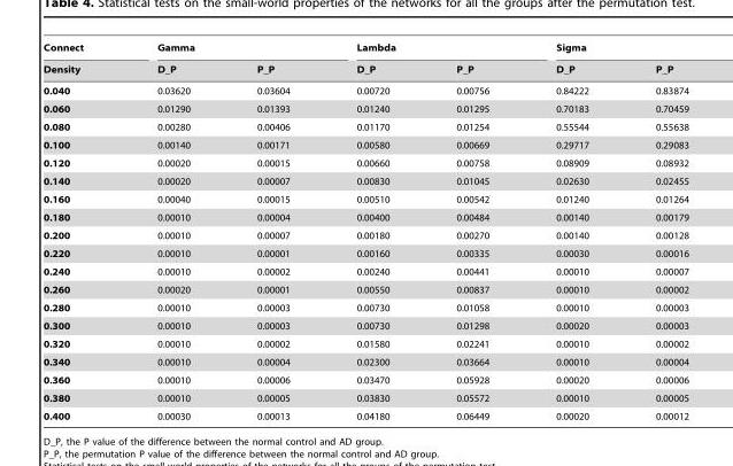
<table><thead><tr><td rowspan="2">Connect Density</td><td colspan="2">Gamma</td><td colspan="2">Lambda</td><td colspan="2">Sigma</td></tr><tr><td>D_P</td><td>P_P</td><td>D_P</td><td>P_P</td><td>D_P</td><td>P_P</td></tr></thead><tbody><tr><td>0.040</td><td>0.03620</td><td>0.03604</td><td>0.00720</td><td>0.00756</td><td>0.84222</td><td>0.83874</td></tr><tr><td>0.060</td><td>0.01290</td><td>0.01393</td><td>0.01240</td><td>0.01295</td><td>0.70183</td><td>0.70459</td></tr><tr><td>0.080</td><td>0.00280</td><td>0.00406</td><td>0.01170</td><td>0.01254</td><td>0.55544</td><td>0.55638</td></tr><tr><td>0.100</td><td>0.00140</td><td>0.00171</td><td>0.00580</td><td>0.00669</td><td>0.29717</td><td>0.29083</td></tr><tr><td>0.120</td><td>0.00020</td><td>0.00015</td><td>0.00660</td><td>0.00758</td><td>0.08909</td><td>0.08932</td></tr><tr><td>0.140</td><td>0.00020</td><td>0.00007</td><td>0.00830</td><td>0.01045</td><td>0.02630</td><td>0.02455</td></tr><tr><td>0.160</td><td>0.00040</td><td>0.00015</td><td>0.00510</td><td>0.00542</td><td>0.01240</td><td>0.01264</td></tr><tr><td>0.180</td><td>0.00010</td><td>0.00004</td><td>0.00400</td><td>0.00484</td><td>0.00140</td><td>0.00179</td></tr><tr><td>0.200</td><td>0.00010</td><td>0.00007</td><td>0.00180</td><td>0.00270</td><td>0.00140</td><td>0.00128</td></tr><tr><td>0.220</td><td>0.00010</td><td>0.00001</td><td>0.00160</td><td>0.00335</td><td>0.00030</td><td>0.00016</td></tr><tr><td>0.240</td><td>0.00010</td><td>0.00002</td><td>0.00240</td><td>0.00441</td><td>0.00010</td><td>0.00007</td></tr><tr><td>0.260</td><td>0.00020</td><td>0.00001</td><td>0.00550</td><td>0.00837</td><td>0.00010</td><td>0.00002</td></tr><tr><td>0.280</td><td>0.00010</td><td>0.00003</td><td>0.00730</td><td>0.01058</td><td>0.00010</td><td>0.00003</td></tr><tr><td>0.300</td><td>0.00010</td><td>0.00003</td><td>0.00730</td><td>0.01298</td><td>0.00020</td><td>0.00003</td></tr><tr><td>0.320</td><td>0.00010</td><td>0.00002</td><td>0.01580</td><td>0.02241</td><td>0.00010</td><td>0.00002</td></tr><tr><td>0.340</td><td>0.00010</td><td>0.00004</td><td>0.02300</td><td>0.03664</td><td>0.00010</td><td>0.00004</td></tr><tr><td>0.360</td><td>0.00010</td><td>0.00006</td><td>0.03470</td><td>0.05928</td><td>0.00020</td><td>0.00006</td></tr><tr><td>0.380</td><td>0.00010</td><td>0.00005</td><td>0.03830</td><td>0.05572</td><td>0.00010</td><td>0.00005</td></tr><tr><td>0.400</td><td>0.00030</td><td>0.00013</td><td>0.04180</td><td>0.06449</td><td>0.00020</td><td>0.00012</td></tr></tbody></table>